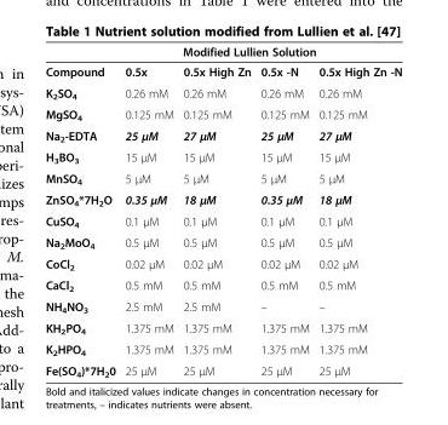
<table><thead><tr><td rowspan="2">Compound</td><td colspan="4">Modified Lullien Solution</td></tr><tr><td>0.5x</td><td>0.5x High Zn</td><td>0.5x -N</td><td>0.5x High Zn -N</td></tr></thead><tbody><tr><td>K<sub>2</sub>SO<sub>4</sub></td><td>0.26 mM</td><td>0.26 mM</td><td>0.26 mM</td><td>0.26 mM</td></tr><tr><td>MgSO<sub>4</sub></td><td>0.125 mM</td><td>0.125 mM</td><td>0.125 mM</td><td>0.125 mM</td></tr><tr><td>Na<sub>2</sub>-EDTA</td><td>25 μM</td><td>27 μM</td><td>25 μM</td><td>27 μM</td></tr><tr><td>H<sub>3</sub>BO<sub>3</sub></td><td>15 μM</td><td>15 μM</td><td>15 μM</td><td>15 μM</td></tr><tr><td>MnSO<sub>4</sub></td><td>5 μM</td><td>5 μM</td><td>5 μM</td><td>5 μM</td></tr><tr><td>ZnSO<sub>4</sub>*7H<sub>2</sub>O</td><td>0.35 μM</td><td>18 μM</td><td>0.35 μM</td><td>18 μM</td></tr><tr><td>CuSO<sub>4</sub></td><td>0.1 μM</td><td>0.1 μM</td><td>0.1 μM</td><td>0.1 μM</td></tr><tr><td>Na<sub>2</sub>MoO<sub>4</sub></td><td>0.5 μM</td><td>0.5 μM</td><td>0.5 μM</td><td>0.5 μM</td></tr><tr><td>CoCl<sub>2</sub></td><td>0.02 μM</td><td>0.02 μM</td><td>0.02 μM</td><td>0.02 μM</td></tr><tr><td>CaCl<sub>2</sub></td><td>0.5 mM</td><td>0.5 mM</td><td>0.5 mM</td><td>0.5 mM</td></tr><tr><td>NH<sub>4</sub>NO<sub>3</sub></td><td>2.5 mM</td><td>2.5 mM</td><td>–</td><td>–</td></tr><tr><td>KH<sub>2</sub>PO<sub>4</sub></td><td>1.375 mM</td><td>1.375 mM</td><td>1.375 mM</td><td>1.375 mM</td></tr><tr><td>K<sub>2</sub>HPO<sub>4</sub></td><td>1.375 mM</td><td>1.375 mM</td><td>1.375 mM</td><td>1.375 mM</td></tr><tr><td>Fe(SO<sub>4</sub>)*7H<sub>2</sub>0</td><td>25 μM</td><td>25 μM</td><td>25 μM</td><td>25 μM</td></tr></tbody></table>